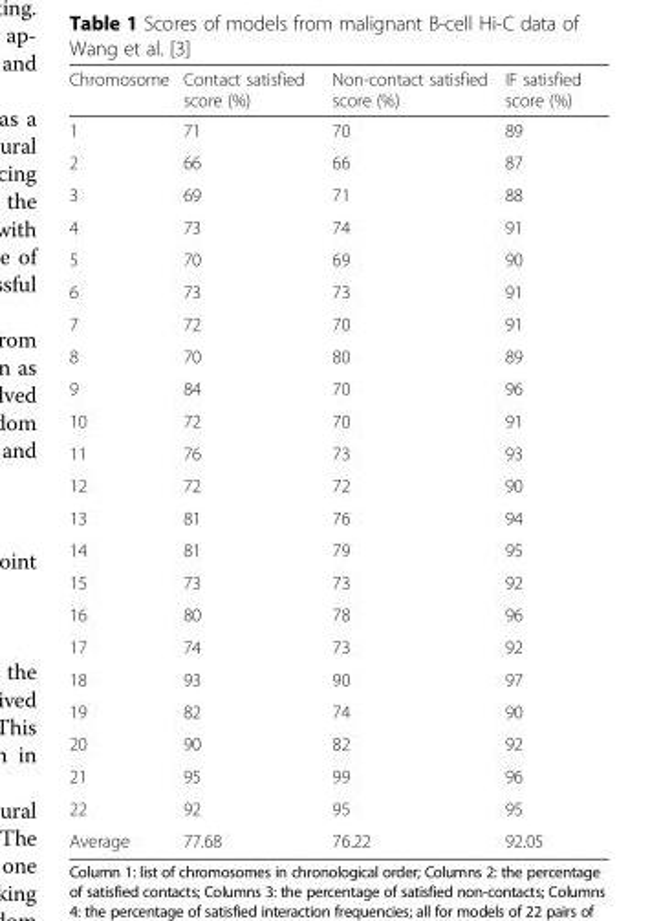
<table><thead><tr><td>Chromosome</td><td>Contact satisfied score (%)</td><td>Non-contact satisfied score (%)</td><td>IF satisfied score (%)</td></tr></thead><tbody><tr><td>1</td><td>71</td><td>70</td><td>89</td></tr><tr><td>2</td><td>66</td><td>66</td><td>87</td></tr><tr><td>3</td><td>69</td><td>71</td><td>88</td></tr><tr><td>4</td><td>73</td><td>74</td><td>91</td></tr><tr><td>5</td><td>70</td><td>69</td><td>90</td></tr><tr><td>6</td><td>73</td><td>73</td><td>91</td></tr><tr><td>7</td><td>72</td><td>70</td><td>91</td></tr><tr><td>8</td><td>70</td><td>80</td><td>89</td></tr><tr><td>9</td><td>84</td><td>70</td><td>96</td></tr><tr><td>10</td><td>72</td><td>70</td><td>91</td></tr><tr><td>11</td><td>76</td><td>73</td><td>93</td></tr><tr><td>12</td><td>72</td><td>72</td><td>90</td></tr><tr><td>13</td><td>81</td><td>76</td><td>94</td></tr><tr><td>14</td><td>81</td><td>79</td><td>95</td></tr><tr><td>15</td><td>73</td><td>73</td><td>92</td></tr><tr><td>16</td><td>80</td><td>78</td><td>96</td></tr><tr><td>17</td><td>74</td><td>73</td><td>92</td></tr><tr><td>18</td><td>93</td><td>90</td><td>97</td></tr><tr><td>19</td><td>82</td><td>74</td><td>90</td></tr><tr><td>20</td><td>90</td><td>82</td><td>92</td></tr><tr><td>21</td><td>95</td><td>99</td><td>96</td></tr><tr><td>22</td><td>92</td><td>95</td><td>95</td></tr><tr><td>Average</td><td>77.68</td><td>76.22</td><td>92.05</td></tr></tbody></table>